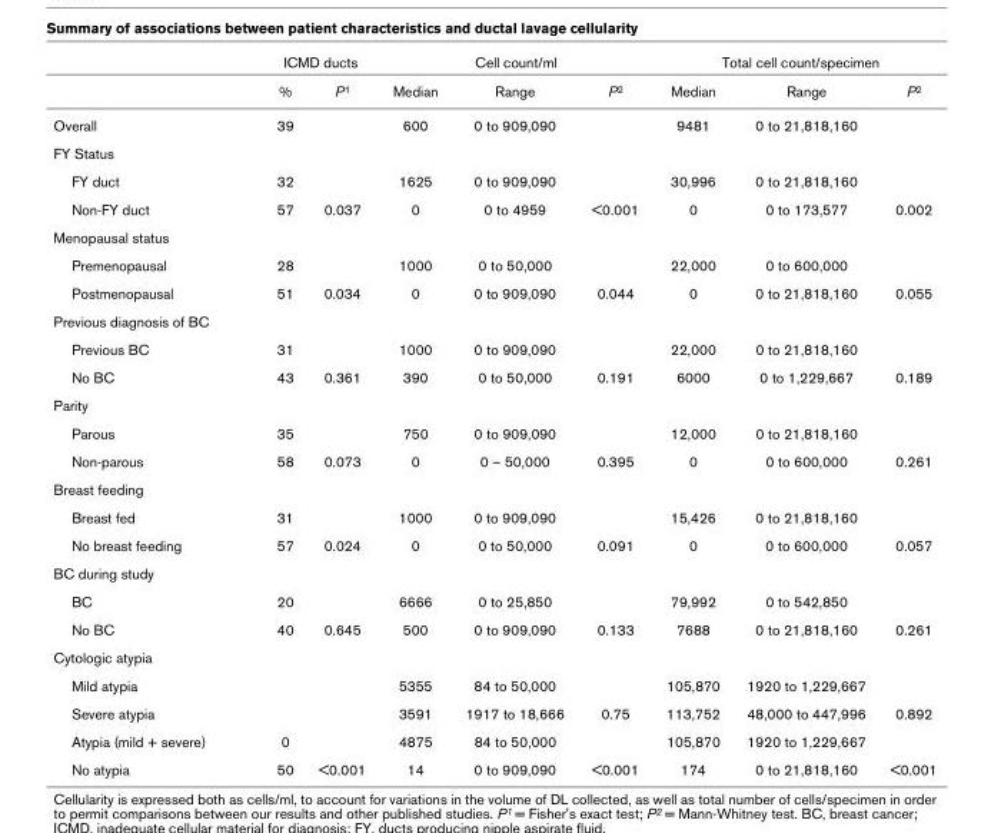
<table><thead><tr><td rowspan="2"></td><td colspan="2">ICMD ducts</td><td colspan="3">Cell count/ml</td><td colspan="3">Total cell count/specimen</td></tr><tr><td>%</td><td>P1</td><td>Median</td><td>Range</td><td>P2</td><td>Median</td><td>Range</td><td>P2</td></tr></thead><tbody><tr><td>Overall</td><td>39</td><td></td><td>600</td><td>0 to 909,090</td><td></td><td>9481</td><td>0 to 21,818,160</td><td></td></tr><tr><td colspan="9">FY Status</td></tr><tr><td>FY duct</td><td>32</td><td></td><td>1625</td><td>0 to 909,090</td><td></td><td>30,996</td><td>0 to 21,818,160</td><td></td></tr><tr><td>Non-FY duct</td><td>57</td><td>0.037</td><td>0</td><td>0 to 4959</td><td>&lt;0.001</td><td>0</td><td>0 to 173,577</td><td>0.002</td></tr><tr><td colspan="9">Menopausal status</td></tr><tr><td>Premenopausal</td><td>28</td><td></td><td>1000</td><td>0 to 50,000</td><td></td><td>22,000</td><td>0 to 600,000</td><td></td></tr><tr><td>Postmenopausal</td><td>51</td><td>0.034</td><td>0</td><td>0 to 909,090</td><td>0.044</td><td>0</td><td>0 to 21,818,160</td><td>0.055</td></tr><tr><td colspan="9">Previous diagnosis of BC</td></tr><tr><td>Previous BC</td><td>31</td><td></td><td>1000</td><td>0 to 909,090</td><td></td><td>22,000</td><td>0 to 21,818,160</td><td></td></tr><tr><td>No BC</td><td>43</td><td>0.361</td><td>390</td><td>0 to 50,000</td><td>0.191</td><td>6000</td><td>0 to 1,229,667</td><td>0.189</td></tr><tr><td colspan="9">Parity</td></tr><tr><td>Parous</td><td>35</td><td></td><td>750</td><td>0 to 909,090</td><td></td><td>12,000</td><td>0 to 21,818,160</td><td></td></tr><tr><td>Non-parous</td><td>58</td><td>0.073</td><td>0</td><td>0 – 50,000</td><td>0.395</td><td>0</td><td>0 to 600,000</td><td>0.261</td></tr><tr><td colspan="9">Breast feeding</td></tr><tr><td>Breast fed</td><td>31</td><td></td><td>1000</td><td>0 to 909,090</td><td></td><td>15,426</td><td>0 to 21,818,160</td><td></td></tr><tr><td>No breast feeding</td><td>57</td><td>0.024</td><td>0</td><td>0 to 50,000</td><td>0.091</td><td>0</td><td>0 to 600,000</td><td>0.057</td></tr><tr><td colspan="9">BC during study</td></tr><tr><td>BC</td><td>20</td><td></td><td>6666</td><td>0 to 25,850</td><td></td><td>79,992</td><td>0 to 542,850</td><td></td></tr><tr><td>No BC</td><td>40</td><td>0.645</td><td>500</td><td>0 to 909,090</td><td>0.133</td><td>7688</td><td>0 to 21,818,160</td><td>0.261</td></tr><tr><td colspan="9">Cytologic atypia</td></tr><tr><td>Mild atypia</td><td></td><td></td><td>5355</td><td>84 to 50,000</td><td></td><td>105,870</td><td>1920 to 1,229,667</td><td></td></tr><tr><td>Severe atypia</td><td></td><td></td><td>3591</td><td>1917 to 18,666</td><td>0.75</td><td>113,752</td><td>48,000 to 447,996</td><td>0.892</td></tr><tr><td>Atypia (mild + severe)</td><td>0</td><td></td><td>4875</td><td>84 to 50,000</td><td></td><td>105,870</td><td>1920 to 1,229,667</td><td></td></tr><tr><td>No atypia</td><td>50</td><td>&lt;0.001</td><td>14</td><td>0 to 909,090</td><td>&lt;0.001</td><td>174</td><td>0 to 21,818,160</td><td>&lt;0.001</td></tr></tbody></table>